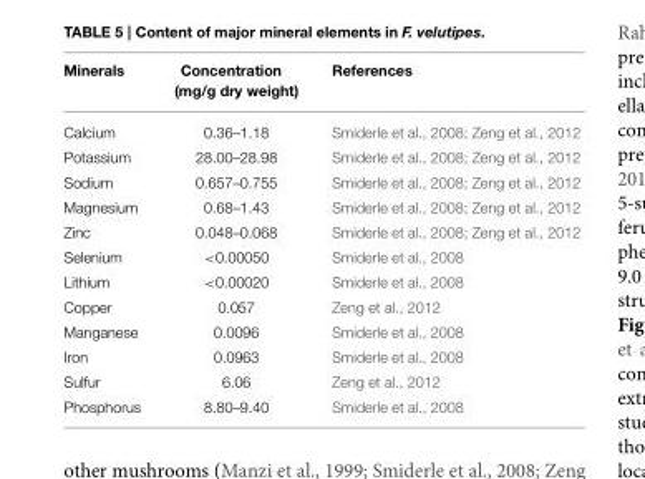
<table><thead><tr><td>Minerals</td><td>Concentration (mg/g dry weight)</td><td>References</td></tr></thead><tbody><tr><td>Calcium</td><td>0.36–1.18</td><td>Smiderle et al., 2008; Zeng et al., 2012</td></tr><tr><td>Potassium</td><td>28.00–28.98</td><td>Smiderle et al., 2008; Zeng et al., 2012</td></tr><tr><td>Sodium</td><td>0.657–0.755</td><td>Smiderle et al., 2008; Zeng et al., 2012</td></tr><tr><td>Magnesium</td><td>0.68–1.43</td><td>Smiderle et al., 2008; Zeng et al., 2012</td></tr><tr><td>Zinc</td><td>0.048–0.068</td><td>Smiderle et al., 2008; Zeng et al., 2012</td></tr><tr><td>Selenium</td><td>&lt;0.00050</td><td>Smiderle et al., 2008</td></tr><tr><td>Lithium</td><td>&lt;0.00020</td><td>Smiderle et al., 2008</td></tr><tr><td>Copper</td><td>0.057</td><td>Zeng et al., 2012</td></tr><tr><td>Manganese</td><td>0.0096</td><td>Smiderle et al., 2008</td></tr><tr><td>Iron</td><td>0.0963</td><td>Smiderle et al., 2008</td></tr><tr><td>Sulfur</td><td>6.06</td><td>Zeng et al., 2012</td></tr><tr><td>Phosphorus</td><td>8.80–9.40</td><td>Smiderle et al., 2008</td></tr></tbody></table>